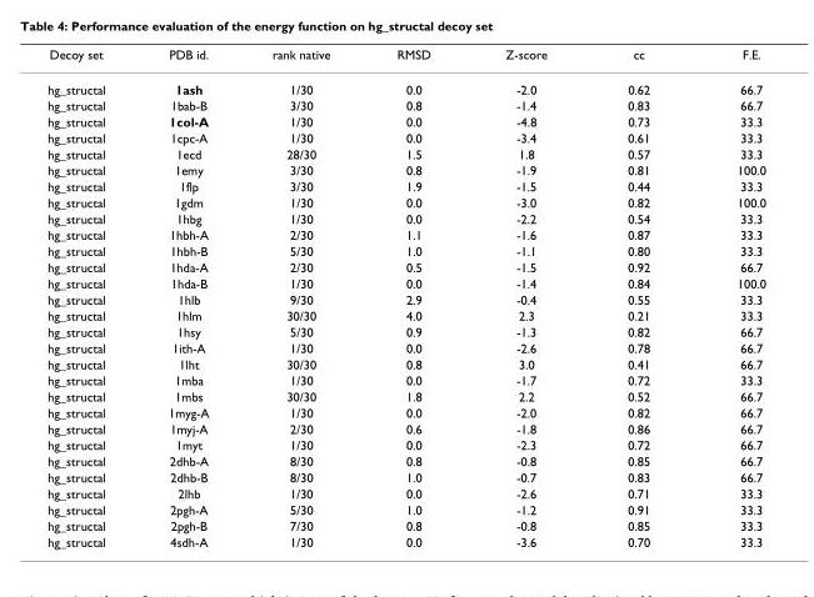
<table><thead><tr><td>Decoy set</td><td>PDB id.</td><td>rank native</td><td>RMSD</td><td>Z-score</td><td>cc</td><td>F.E.</td></tr></thead><tbody><tr><td>hg_structal</td><td>1ash</td><td>1/30</td><td>0.0</td><td>-2.0</td><td>0.62</td><td>66.7</td></tr><tr><td>hg_structal</td><td>1bab-B</td><td>3/30</td><td>0.8</td><td>-1.4</td><td>0.83</td><td>66.7</td></tr><tr><td>hg_structal</td><td>1col-A</td><td>1/30</td><td>0.0</td><td>-4.8</td><td>0.73</td><td>33.3</td></tr><tr><td>hg_structal</td><td>1cpc-A</td><td>1/30</td><td>0.0</td><td>-3.4</td><td>0.61</td><td>33.3</td></tr><tr><td>hg_structal</td><td>1ecd</td><td>28/30</td><td>1.5</td><td>1.8</td><td>0.57</td><td>33.3</td></tr><tr><td>hg_structal</td><td>1emy</td><td>3/30</td><td>0.8</td><td>-1.9</td><td>0.81</td><td>100.0</td></tr><tr><td>hg_structal</td><td>1flp</td><td>3/30</td><td>1.9</td><td>-1.5</td><td>0.44</td><td>33.3</td></tr><tr><td>hg_structal</td><td>1gdm</td><td>1/30</td><td>0.0</td><td>-3.0</td><td>0.82</td><td>100.0</td></tr><tr><td>hg_structal</td><td>1hbg</td><td>1/30</td><td>0.0</td><td>-2.2</td><td>0.54</td><td>33.3</td></tr><tr><td>hg_structal</td><td>1hbh-A</td><td>2/30</td><td>1.1</td><td>-1.6</td><td>0.87</td><td>33.3</td></tr><tr><td>hg_structal</td><td>1hbh-B</td><td>5/30</td><td>1.0</td><td>-1.1</td><td>0.80</td><td>33.3</td></tr><tr><td>hg_structal</td><td>1hda-A</td><td>2/30</td><td>0.5</td><td>-1.5</td><td>0.92</td><td>66.7</td></tr><tr><td>hg_structal</td><td>1hda-B</td><td>1/30</td><td>0.0</td><td>-1.4</td><td>0.84</td><td>100.0</td></tr><tr><td>hg_structal</td><td>1hlb</td><td>9/30</td><td>2.9</td><td>-0.4</td><td>0.55</td><td>33.3</td></tr><tr><td>hg_structal</td><td>1hlm</td><td>30/30</td><td>4.0</td><td>2.3</td><td>0.21</td><td>33.3</td></tr><tr><td>hg_structal</td><td>1hsy</td><td>5/30</td><td>0.9</td><td>-1.3</td><td>0.82</td><td>66.7</td></tr><tr><td>hg_structal</td><td>1ith-A</td><td>1/30</td><td>0.0</td><td>-2.6</td><td>0.78</td><td>66.7</td></tr><tr><td>hg_structal</td><td>1lht</td><td>30/30</td><td>0.8</td><td>3.0</td><td>0.41</td><td>66.7</td></tr><tr><td>hg_structal</td><td>1mba</td><td>1/30</td><td>0.0</td><td>-1.7</td><td>0.72</td><td>33.3</td></tr><tr><td>hg_structal</td><td>1mbs</td><td>30/30</td><td>1.8</td><td>2.2</td><td>0.52</td><td>66.7</td></tr><tr><td>hg_structal</td><td>1myg-A</td><td>1/30</td><td>0.0</td><td>-2.0</td><td>0.82</td><td>66.7</td></tr><tr><td>hg_structal</td><td>1myj-A</td><td>2/30</td><td>0.6</td><td>-1.8</td><td>0.86</td><td>66.7</td></tr><tr><td>hg_structal</td><td>1myt</td><td>1/30</td><td>0.0</td><td>-2.3</td><td>0.72</td><td>66.7</td></tr><tr><td>hg_structal</td><td>2dhb-A</td><td>8/30</td><td>0.8</td><td>-0.8</td><td>0.85</td><td>66.7</td></tr><tr><td>hg_structal</td><td>2dhb-B</td><td>8/30</td><td>1.0</td><td>-0.7</td><td>0.83</td><td>66.7</td></tr><tr><td>hg_structal</td><td>2lhb</td><td>1/30</td><td>0.0</td><td>-2.6</td><td>0.71</td><td>33.3</td></tr><tr><td>hg_structal</td><td>2pgh-A</td><td>5/30</td><td>1.0</td><td>-1.2</td><td>0.91</td><td>33.3</td></tr><tr><td>hg_structal</td><td>2pgh-B</td><td>7/30</td><td>0.8</td><td>-0.8</td><td>0.85</td><td>33.3</td></tr><tr><td>hg_structal</td><td>4sdh-A</td><td>1/30</td><td>0.0</td><td>-3.6</td><td>0.70</td><td>33.3</td></tr></tbody></table>